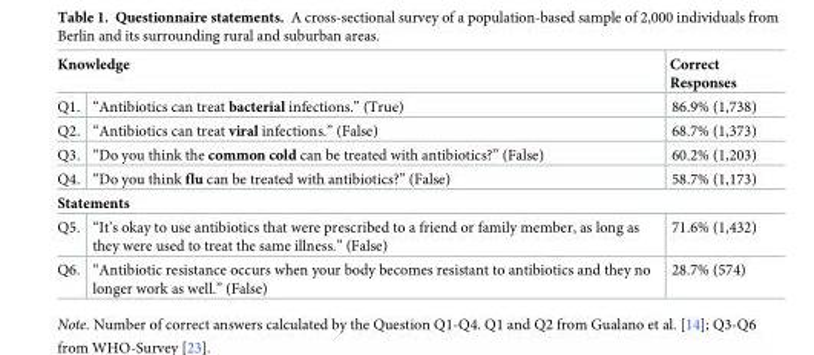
<table><thead><tr><td colspan="2">Knowledge</td><td rowspan="2">Correct Responses 86.9% (1,738)</td></tr><tr><td>Q1.</td><td>“Antibiotics can treat bacterial infections.” (True)</td></tr></thead><tbody><tr><td>Q2.</td><td>“Antibiotics can treat viral infections.” (False)</td><td>68.7% (1,373)</td></tr><tr><td>Q3.</td><td>“Do you think the common cold can be treated with antibiotics?” (False)</td><td>60.2% (1,203)</td></tr><tr><td>Q4.</td><td>“Do you think flu can be treated with antibiotics?” (False)</td><td>58.7% (1,173)</td></tr><tr><td colspan="3">Statements</td></tr><tr><td>Q5.</td><td>“It’s okay to use antibiotics that were prescribed to a friend or family member, as long as they were used to treat the same illness.” (False)</td><td>71.6% (1,432)</td></tr><tr><td>Q6.</td><td>“Antibiotic resistance occurs when your body becomes resistant to antibiotics and they no longer work as well.” (False)</td><td>28.7% (574)</td></tr></tbody></table>